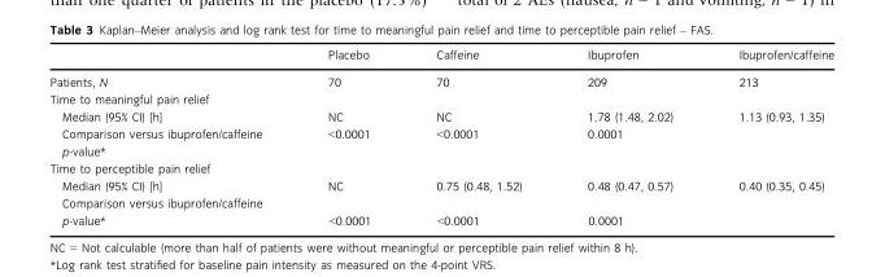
<table><thead><tr><td></td><td>Placebo</td><td>Caffeine</td><td>Ibuprofen</td><td>Ibuprofen/caffeine</td></tr></thead><tbody><tr><td>Patients, N</td><td>70</td><td>70</td><td>209</td><td>213</td></tr><tr><td colspan="5">Time to meaningful pain relief</td></tr><tr><td>Median (95% CI) [h]</td><td>NC</td><td>NC</td><td>1.78 (1.48, 2.02)</td><td>1.13 (0.93, 1.35)</td></tr><tr><td>Comparison versus ibuprofen/caffeine p-value*</td><td>&lt;0.0001</td><td>&lt;0.0001</td><td>0.0001</td><td></td></tr><tr><td colspan="5">Time to perceptible pain relief</td></tr><tr><td>Median (95% CI) [h]</td><td>NC</td><td>0.75 (0.48, 1.52)</td><td>0.48 (0.47, 0.57)</td><td>0.40 (0.35, 0.45)</td></tr><tr><td>Comparison versus ibuprofen/caffeine p-value*</td><td>&lt;0.0001</td><td>&lt;0.0001</td><td>0.0001</td><td></td></tr></tbody></table>